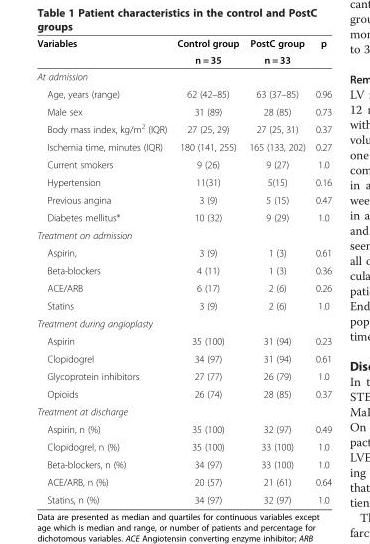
<table><thead><tr><td rowspan="2">Variables</td><td rowspan="2">Control group n = 35</td><td rowspan="2">PostC group n = 33</td><td rowspan="2">p</td></tr><tr></tr></thead><tbody><tr><td colspan="4">At admission</td></tr><tr><td>Age, years (range)</td><td>62 (42–85)</td><td>63 (37–85)</td><td>0.96</td></tr><tr><td>Male sex</td><td>31 (89)</td><td>28 (85)</td><td>0.73</td></tr><tr><td>Body mass index, kg/m<sup>2</sup> (IQR)</td><td>27 (25, 29)</td><td>27 (25, 31)</td><td>0.37</td></tr><tr><td>Ischemia time, minutes (IQR)</td><td>180 (141, 255)</td><td>165 (133, 202)</td><td>0.27</td></tr><tr><td>Current smokers</td><td>9 (26)</td><td>9 (27)</td><td>1.0</td></tr><tr><td>Hypertension</td><td>11(31)</td><td>5(15)</td><td>0.16</td></tr><tr><td>Previous angina</td><td>3 (9)</td><td>5 (15)</td><td>0.47</td></tr><tr><td>Diabetes mellitus*</td><td>10 (32)</td><td>9 (29)</td><td>1.0</td></tr><tr><td colspan="4">Treatment on admission</td></tr><tr><td>Aspirin,</td><td>3 (9)</td><td>1 (3)</td><td>0.61</td></tr><tr><td>Beta-blockers</td><td>4 (11)</td><td>1 (3)</td><td>0.36</td></tr><tr><td>ACE/ARB</td><td>6 (17)</td><td>2 (6)</td><td>0.26</td></tr><tr><td>Statins</td><td>3 (9)</td><td>2 (6)</td><td>1.0</td></tr><tr><td colspan="4">Treatment during angioplasty</td></tr><tr><td>Aspirin</td><td>35 (100)</td><td>31 (94)</td><td>0.23</td></tr><tr><td>Clopidogrel</td><td>34 (97)</td><td>31 (94)</td><td>0.61</td></tr><tr><td>Glycoprotein inhibitors</td><td>27 (77)</td><td>26 (79)</td><td>1.0</td></tr><tr><td>Opioids</td><td>26 (74)</td><td>28 (85)</td><td>0.37</td></tr><tr><td colspan="4">Treatment at discharge</td></tr><tr><td>Aspirin, n (%)</td><td>35 (100)</td><td>32 (97)</td><td>0.49</td></tr><tr><td>Clopidogrel, n (%)</td><td>35 (100)</td><td>33 (100)</td><td>1.0</td></tr><tr><td>Beta-blockers, n (%)</td><td>34 (97)</td><td>33 (100)</td><td>1.0</td></tr><tr><td>ACE/ARB, n (%)</td><td>20 (57)</td><td>21 (61)</td><td>0.64</td></tr><tr><td>Statins, n (%)</td><td>34 (97)</td><td>32 (97)</td><td>1.0</td></tr></tbody></table>